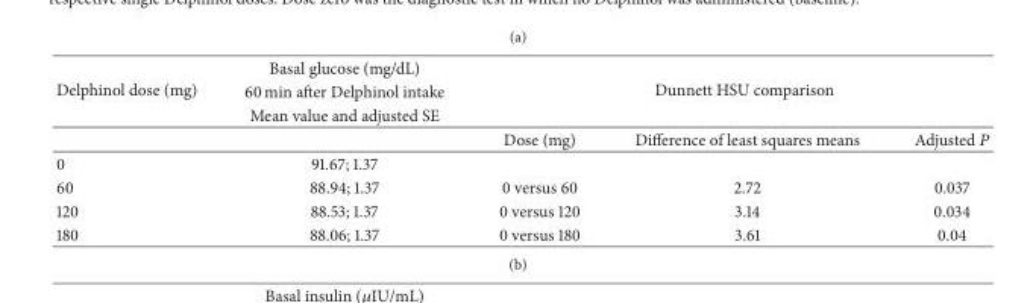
<table><thead><tr><td rowspan="4">Delphinol dose (mg)</td><td rowspan="4">Basal glucose (mg/dL) 60 min after Delphinol intake Mean value and adjusted SE</td><td rowspan="3" colspan="3">Dunnett HSU comparison</td></tr><tr></tr><tr></tr><tr><td>Dose (mg)</td><td>Difference of least squares means</td><td>Adjusted</td></tr></thead><tbody><tr><td>0</td><td>91.67; 1.37</td><td></td><td></td><td></td></tr><tr><td>60</td><td>88.94; 1.37</td><td>0 versus 60</td><td>2.72</td><td>0.037</td></tr><tr><td>120</td><td>88.53; 1.37</td><td>0 versus 120</td><td>3.14</td><td>0.034</td></tr><tr><td>180</td><td>88.06; 1.37</td><td>0 versus 180</td><td>3.61</td><td>0.04</td></tr></tbody></table>